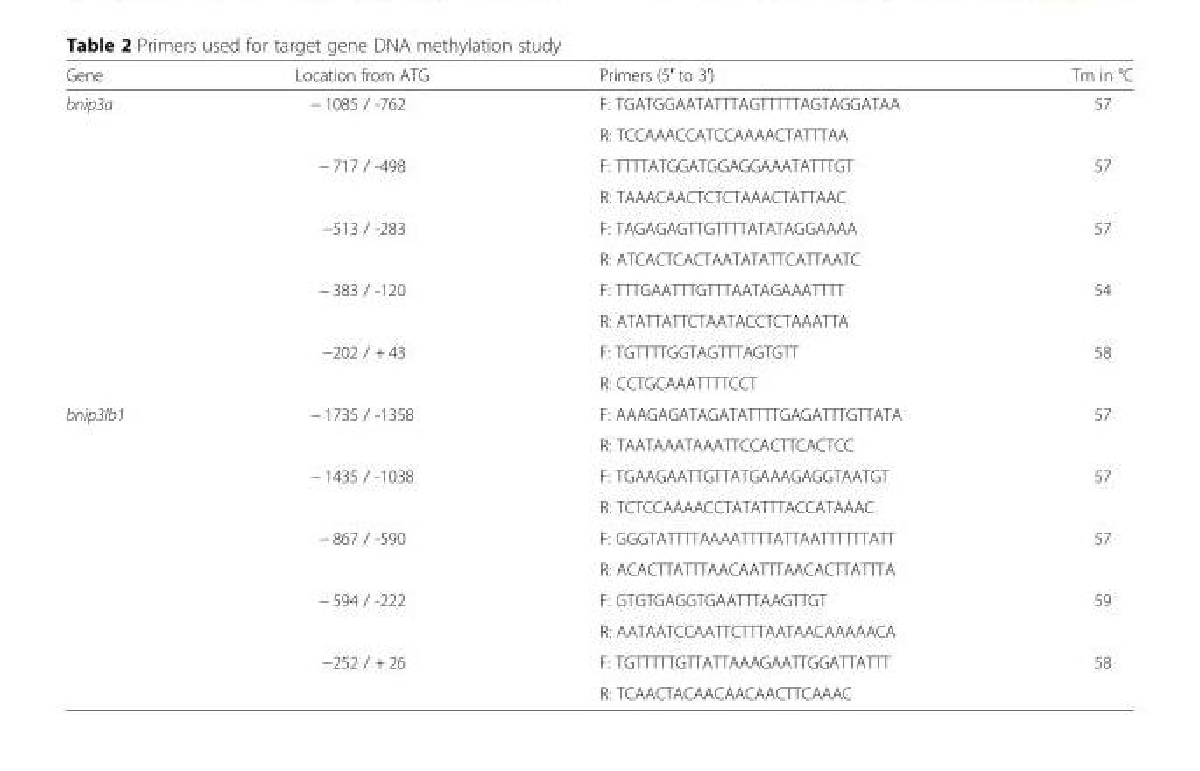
<table><thead><tr><td>Gene</td><td>Location from ATG</td><td>Primers (5′ to 3′)</td><td>Tm in °C</td></tr></thead><tbody><tr><td rowspan="10">bnip3a</td><td rowspan="2">− 1085 / -762</td><td>F: TGATGGAATATTTAGTTTTTAGTAGGATAA</td><td rowspan="2">57</td></tr><tr><td>R: TCCAAACCATCCAAAACTATTTAA</td></tr><tr><td rowspan="2">− 717 / -498</td><td>F: TTTTATGGATGGAGGAAATATTTGT</td><td rowspan="2">57</td></tr><tr><td>R: TAAACAACTCTCTAAACTATTAAC</td></tr><tr><td rowspan="2">−513 / -283</td><td>F: TAGAGAGTTGTTTTATATAGGAAAA</td><td rowspan="2">57</td></tr><tr><td>R: ATCACTCACTAATATATTCATTAATC</td></tr><tr><td rowspan="2">− 383 / -120</td><td>F: TTTGAATTTGTTTAATAGAAATTTT</td><td rowspan="2">54</td></tr><tr><td>R: ATATTATTCTAATACCTCTAAATTA</td></tr><tr><td rowspan="2">−202 / + 43</td><td>F: TGTTTTGGTAGTTTAGTGTT</td><td rowspan="2">58</td></tr><tr><td>R: CCTGCAAATTTTCCT</td></tr><tr><td rowspan="10">bnip3lb1</td><td rowspan="2">− 1735 / -1358</td><td>F: AAAGAGATAGATATTTTGAGATTTGTTATA</td><td rowspan="2">57</td></tr><tr><td>R: TAATAAATAAATTCCACTTCACTCC</td></tr><tr><td rowspan="2">− 1435 / -1038</td><td>F: TGAAGAATTGTTATGAAAGAGGTAATGT</td><td rowspan="2">57</td></tr><tr><td>R: TCTCCAAAACCTATATTTACCATAAAC</td></tr><tr><td rowspan="2">− 867 / -590</td><td>F: GGGTATTTTAAAATTTTATTAATTTTTTATT</td><td rowspan="2">57</td></tr><tr><td>R: ACACTTATTTAACAATTTAACACTTATTTA</td></tr><tr><td rowspan="2">− 594 / -222</td><td>F: GTGTGAGGTGAATTTAAGTTGT</td><td rowspan="2">59</td></tr><tr><td>R: AATAATCCAATTCTTTAATAACAAAAACA</td></tr><tr><td rowspan="2">−252 / + 26</td><td>F: TGTTTTTGTTATTAAAGAATTGGATTATTT</td><td rowspan="2">58</td></tr><tr><td>R: TCAACTACAACAACAACTTCAAAC</td></tr></tbody></table>